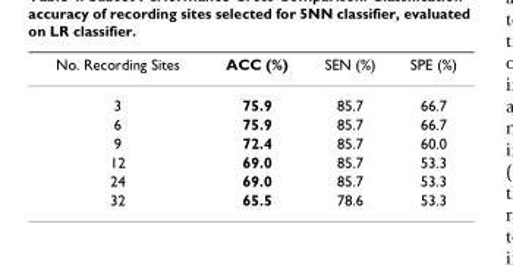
<table><thead><tr><td>No. Recording Sites</td><td>ACC (%)</td><td>SEN (%)</td><td>SPE (%)</td></tr></thead><tbody><tr><td>3</td><td>75.9</td><td>85.7</td><td>66.7</td></tr><tr><td>6</td><td>75.9</td><td>85.7</td><td>66.7</td></tr><tr><td>9</td><td>72.4</td><td>85.7</td><td>60.0</td></tr><tr><td>12</td><td>69.0</td><td>85.7</td><td>53.3</td></tr><tr><td>24</td><td>69.0</td><td>85.7</td><td>53.3</td></tr><tr><td>32</td><td>65.5</td><td>78.6</td><td>53.3</td></tr></tbody></table>